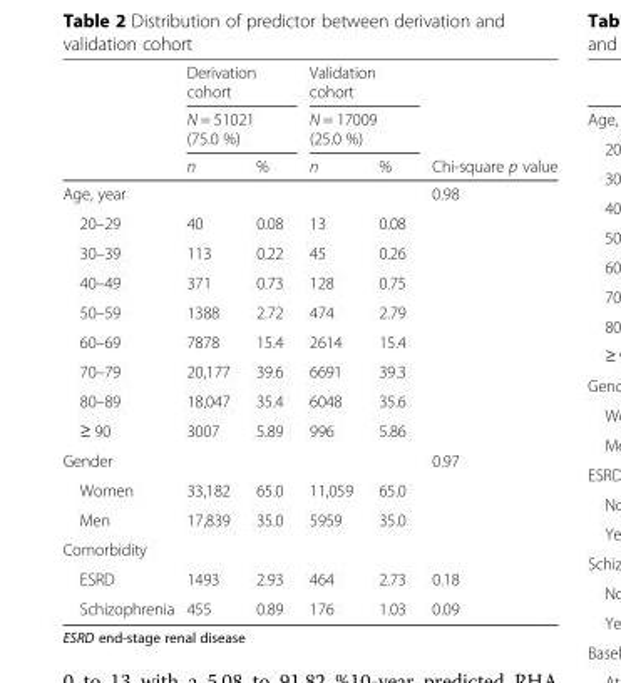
<table><thead><tr><td rowspan="3"></td><td rowspan="2" colspan="2">Derivation cohort N = 51021 (75.0 %)</td><td rowspan="2" colspan="2">Validation cohort N = 17009 (25.0 %)</td><td rowspan="3">Chi-square p value</td></tr><tr></tr><tr><td>n</td><td>%</td><td>n</td><td>%</td></tr></thead><tbody><tr><td>Age, year</td><td></td><td></td><td></td><td></td><td>0.98</td></tr><tr><td>20–29</td><td>40</td><td>0.08</td><td>13</td><td>0.08</td><td></td></tr><tr><td>30–39</td><td>113</td><td>0.22</td><td>45</td><td>0.26</td><td></td></tr><tr><td>40–49</td><td>371</td><td>0.73</td><td>128</td><td>0.75</td><td></td></tr><tr><td>50–59</td><td>1388</td><td>2.72</td><td>474</td><td>2.79</td><td></td></tr><tr><td>60–69</td><td>7878</td><td>15.4</td><td>2614</td><td>15.4</td><td></td></tr><tr><td>70–79</td><td>20,177</td><td>39.6</td><td>6691</td><td>39.3</td><td></td></tr><tr><td>80–89</td><td>18,047</td><td>35.4</td><td>6048</td><td>35.6</td><td></td></tr><tr><td>≥ 90</td><td>3007</td><td>5.89</td><td>996</td><td>5.86</td><td></td></tr><tr><td>Gender</td><td></td><td></td><td></td><td></td><td>0.97</td></tr><tr><td>Women</td><td>33,182</td><td>65.0</td><td>11,059</td><td>65.0</td><td></td></tr><tr><td>Men</td><td>17,839</td><td>35.0</td><td>5959</td><td>35.0</td><td></td></tr><tr><td colspan="6">Comorbidity</td></tr><tr><td>ESRD</td><td>1493</td><td>2.93</td><td>464</td><td>2.73</td><td>0.18</td></tr><tr><td>Schizophrenia</td><td>455</td><td>0.89</td><td>176</td><td>1.03</td><td>0.09</td></tr></tbody></table>